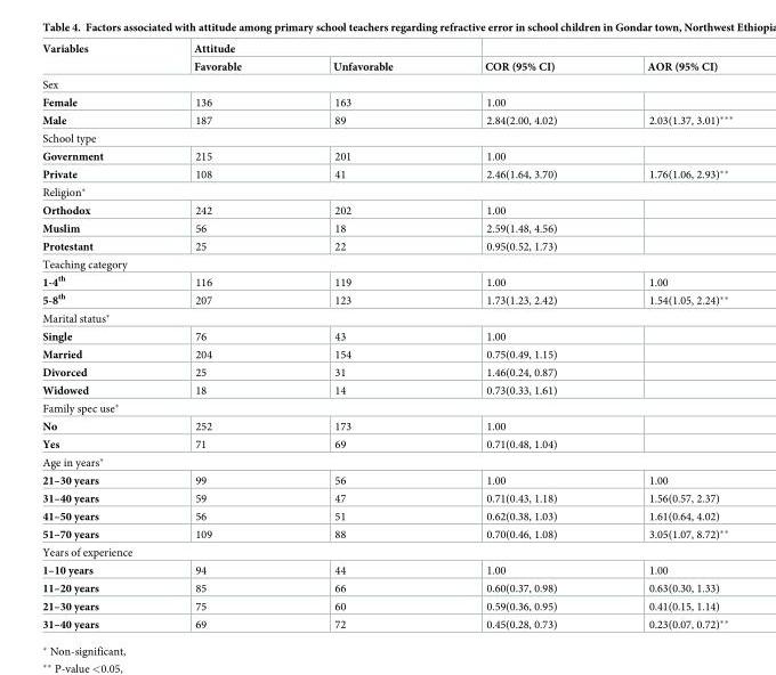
<table><thead><tr><td rowspan="2">Variables</td><td colspan="2">Attitude</td><td rowspan="2">COR (95% CI)</td><td rowspan="2">AOR (95% CI)</td></tr><tr><td>Favorable</td><td>Unfavorable</td></tr></thead><tbody><tr><td colspan="5">Sex</td></tr><tr><td>Female</td><td>136</td><td>163</td><td>1.00</td><td></td></tr><tr><td>Male</td><td>187</td><td>89</td><td>2.84(2.00, 4.02)</td><td>2.03(1.37, 3.01)***</td></tr><tr><td colspan="5">School type</td></tr><tr><td>Government</td><td>215</td><td>201</td><td>1.00</td><td></td></tr><tr><td>Private</td><td>108</td><td>41</td><td>2.46(1.64, 3.70)</td><td>1.76(1.06, 2.93)**</td></tr><tr><td colspan="5">Religion*</td></tr><tr><td>Orthodox</td><td>242</td><td>202</td><td>1.00</td><td></td></tr><tr><td>Muslim</td><td>56</td><td>18</td><td>2.59(1.48, 4.56)</td><td></td></tr><tr><td>Protestant</td><td>25</td><td>22</td><td>0.95(0.52, 1.73)</td><td></td></tr><tr><td colspan="5">Teaching category</td></tr><tr><td>1-4<sup>th</sup></td><td>116</td><td>119</td><td>1.00</td><td>1.00</td></tr><tr><td>5-8<sup>th</sup></td><td>207</td><td>123</td><td>1.73(1.23, 2.42)</td><td>1.54(1.05, 2.24)**</td></tr><tr><td colspan="5">Marital status*</td></tr><tr><td>Single</td><td>76</td><td>43</td><td>1.00</td><td></td></tr><tr><td>Married</td><td>204</td><td>154</td><td>0.75(0.49, 1.15)</td><td></td></tr><tr><td>Divorced</td><td>25</td><td>31</td><td>1.46(0.24, 0.87)</td><td></td></tr><tr><td>Widowed</td><td>18</td><td>14</td><td>0.73(0.33, 1.61)</td><td></td></tr><tr><td colspan="5">Family spec use*</td></tr><tr><td>No</td><td>252</td><td>173</td><td>1.00</td><td></td></tr><tr><td>Yes</td><td>71</td><td>69</td><td>0.71(0.48, 1.04)</td><td></td></tr><tr><td colspan="5">Age in years*</td></tr><tr><td>21–30 years</td><td>99</td><td>56</td><td>1.00</td><td>1.00</td></tr><tr><td>31–40 years</td><td>59</td><td>47</td><td>0.71(0.43, 1.18)</td><td>1.56(0.57, 2.37)</td></tr><tr><td>41–50 years</td><td>56</td><td>51</td><td>0.62(0.38, 1.03)</td><td>1.61(0.64, 4.02)</td></tr><tr><td>51–70 years</td><td>109</td><td>88</td><td>0.70(0.46, 1.08)</td><td>3.05(1.07, 8.72)**</td></tr><tr><td colspan="5">Years of experience</td></tr><tr><td>1–10 years</td><td>94</td><td>44</td><td>1.00</td><td>1.00</td></tr><tr><td>11–20 years</td><td>85</td><td>66</td><td>0.60(0.37, 0.98)</td><td>0.63(0.30, 1.33)</td></tr><tr><td>21–30 years</td><td>75</td><td>60</td><td>0.59(0.36, 0.95)</td><td>0.41(0.15, 1.14)</td></tr><tr><td>31–40 years</td><td>69</td><td>72</td><td>0.45(0.28, 0.73)</td><td>0.23(0.07, 0.72)**</td></tr></tbody></table>